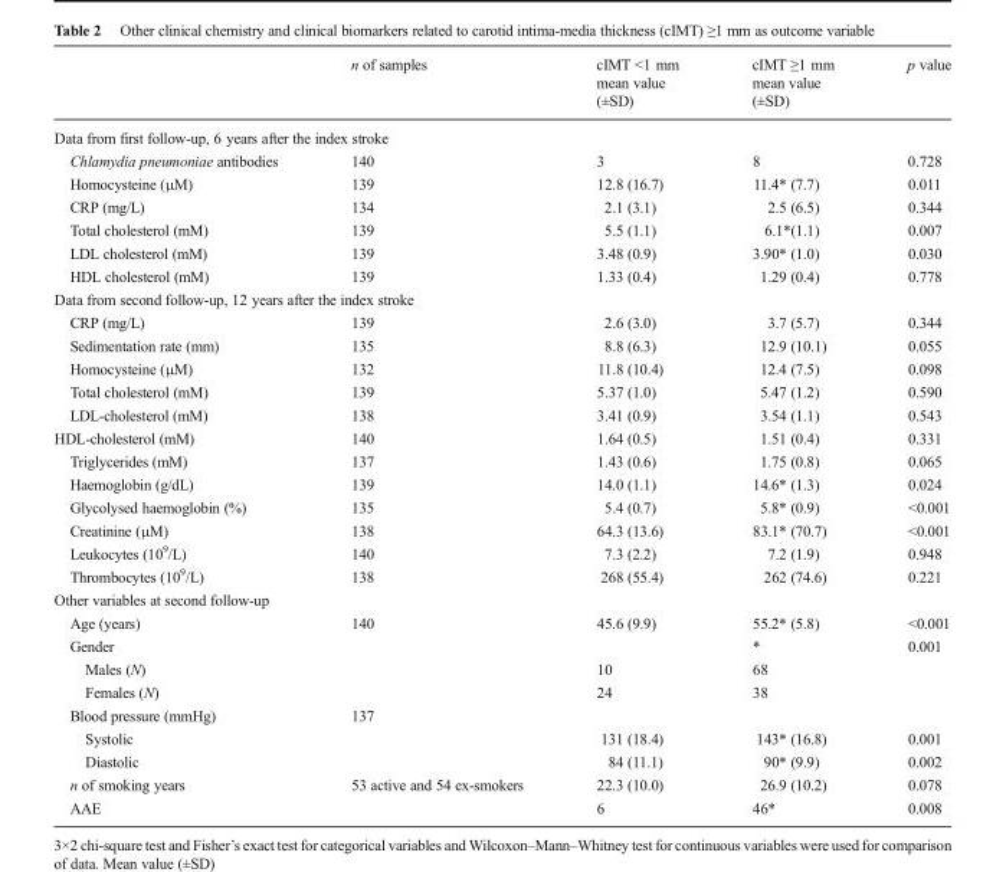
<table><thead><tr><td></td><td>n of samples</td><td>cIMT &lt;1 mm mean value (±SD)</td><td>cIMT ≥1 mm mean value (±SD)</td><td>p value</td></tr></thead><tbody><tr><td colspan="5">Data from first follow-up, 6 years after the index stroke</td></tr><tr><td>Chlamydia pneumoniae antibodies</td><td>140</td><td>3</td><td>8</td><td>0.728</td></tr><tr><td>Homocysteine (μM)</td><td>139</td><td>12.8 (16.7)</td><td>11.4* (7.7)</td><td>0.011</td></tr><tr><td>CRP (mg/L)</td><td>134</td><td>2.1 (3.1)</td><td>2.5 (6.5)</td><td>0.344</td></tr><tr><td>Total cholesterol (mM)</td><td>139</td><td>5.5 (1.1)</td><td>6.1*(1.1)</td><td>0.007</td></tr><tr><td>LDL cholesterol (mM)</td><td>139</td><td>3.48 (0.9)</td><td>3.90* (1.0)</td><td>0.030</td></tr><tr><td>HDL cholesterol (mM)</td><td>139</td><td>1.33 (0.4)</td><td>1.29 (0.4)</td><td>0.778</td></tr><tr><td colspan="5">Data from second follow-up, 12 years after the index stroke</td></tr><tr><td>CRP (mg/L)</td><td>139</td><td>2.6 (3.0)</td><td>3.7 (5.7)</td><td>0.344</td></tr><tr><td>Sedimentation rate (mm)</td><td>135</td><td>8.8 (6.3)</td><td>12.9 (10.1)</td><td>0.055</td></tr><tr><td>Homocysteine (μM)</td><td>132</td><td>11.8 (10.4)</td><td>12.4 (7.5)</td><td>0.098</td></tr><tr><td>Total cholesterol (mM)</td><td>139</td><td>5.37 (1.0)</td><td>5.47 (1.2)</td><td>0.590</td></tr><tr><td>LDL-cholesterol (mM)</td><td>138</td><td>3.41 (0.9)</td><td>3.54 (1.1)</td><td>0.543</td></tr><tr><td>HDL-cholesterol (mM)</td><td>140</td><td>1.64 (0.5)</td><td>1.51 (0.4)</td><td>0.331</td></tr><tr><td>Triglycerides (mM)</td><td>137</td><td>1.43 (0.6)</td><td>1.75 (0.8)</td><td>0.065</td></tr><tr><td>Haemoglobin (g/dL)</td><td>139</td><td>14.0 (1.1)</td><td>14.6* (1.3)</td><td>0.024</td></tr><tr><td>Glycolysed haemoglobin (%)</td><td>135</td><td>5.4 (0.7)</td><td>5.8* (0.9)</td><td>&lt;0.001</td></tr><tr><td>Creatinine (μM)</td><td>138</td><td>64.3 (13.6)</td><td>83.1* (70.7)</td><td>&lt;0.001</td></tr><tr><td>Leukocytes (10<sup>9</sup>/L)</td><td>140</td><td>7.3 (2.2)</td><td>7.2 (1.9)</td><td>0.948</td></tr><tr><td>Thrombocytes (10<sup>9</sup>/L)</td><td>138</td><td>268 (55.4)</td><td>262 (74.6)</td><td>0.221</td></tr><tr><td colspan="5">Other variables at second follow-up</td></tr><tr><td>Age (years)</td><td>140</td><td>45.6 (9.9)</td><td>55.2* (5.8)</td><td>&lt;0.001</td></tr><tr><td>Gender</td><td></td><td></td><td>*</td><td>0.001</td></tr><tr><td>Males (N)</td><td></td><td>10</td><td>68</td><td></td></tr><tr><td>Females (N)</td><td></td><td>24</td><td>38</td><td></td></tr><tr><td>Blood pressure (mmHg)</td><td>137</td><td></td><td></td><td></td></tr><tr><td>Systolic</td><td></td><td>131 (18.4)</td><td>143* (16.8)</td><td>0.001</td></tr><tr><td>Diastolic</td><td></td><td>84 (11.1)</td><td>90* (9.9)</td><td>0.002</td></tr><tr><td>n of smoking years</td><td>53 active and 54 ex-smokers</td><td>22.3 (10.0)</td><td>26.9 (10.2)</td><td>0.078</td></tr><tr><td>AAE</td><td></td><td>6</td><td>46*</td><td>0.008</td></tr></tbody></table>